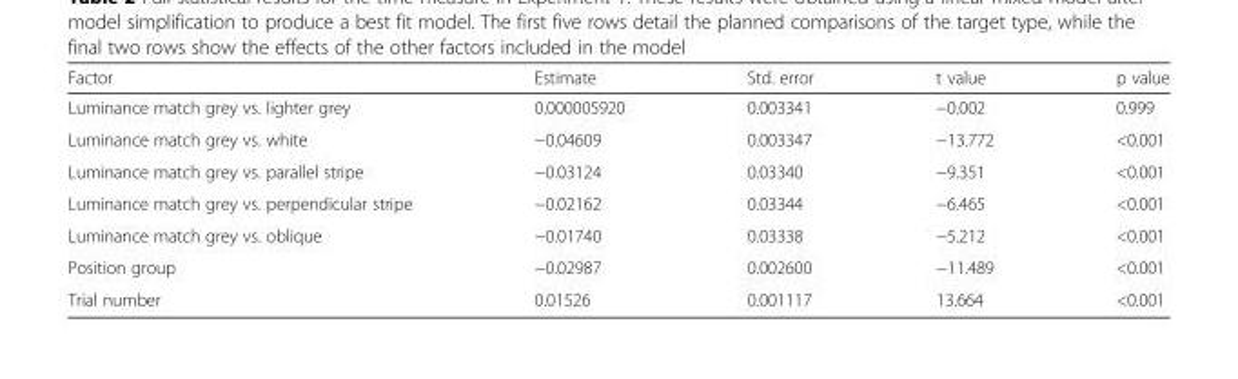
<table><thead><tr><td>Factor</td><td>Estimate</td><td>Std. error</td><td>t value</td><td>p value</td></tr></thead><tbody><tr><td>Luminance match grey vs. lighter grey</td><td>0.000005920</td><td>0.003341</td><td>−0.002</td><td>0.999</td></tr><tr><td>Luminance match grey vs. white</td><td>−0.04609</td><td>0.003347</td><td>−13.772</td><td>&lt;0.001</td></tr><tr><td>Luminance match grey vs. parallel stripe</td><td>−0.03124</td><td>0.03340</td><td>−9.351</td><td>&lt;0.001</td></tr><tr><td>Luminance match grey vs. perpendicular stripe</td><td>−0.02162</td><td>0.03344</td><td>−6.465</td><td>&lt;0.001</td></tr><tr><td>Luminance match grey vs. oblique</td><td>−0.01740</td><td>0.03338</td><td>−5.212</td><td>&lt;0.001</td></tr><tr><td>Position group</td><td>−0.02987</td><td>0.002600</td><td>−11.489</td><td>&lt;0.001</td></tr><tr><td>Trial number</td><td>0.01526</td><td>0.001117</td><td>13.664</td><td>&lt;0.001</td></tr></tbody></table>